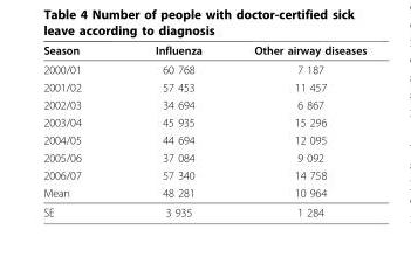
<table><thead><tr><td>Season</td><td>Influenza</td><td>Other airway diseases</td></tr></thead><tbody><tr><td>2000/01</td><td>60 768</td><td>7 187</td></tr><tr><td>2001/02</td><td>57 453</td><td>11 457</td></tr><tr><td>2002/03</td><td>34 694</td><td>6 867</td></tr><tr><td>2003/04</td><td>45 935</td><td>15 296</td></tr><tr><td>2004/05</td><td>44 694</td><td>12 095</td></tr><tr><td>2005/06</td><td>37 084</td><td>9 092</td></tr><tr><td>2006/07</td><td>57 340</td><td>14 758</td></tr><tr><td>Mean</td><td>48 281</td><td>10 964</td></tr><tr><td>SE</td><td>3 935</td><td>1 284</td></tr></tbody></table>